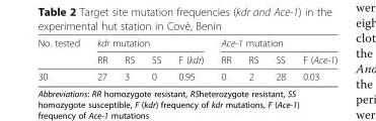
<table><thead><tr><td rowspan="2">No. tested</td><td colspan="4">kdr mutation</td><td colspan="4">Ace-1 mutation</td></tr><tr><td>RR</td><td>RS</td><td>SS</td><td>F (kdr)</td><td>RR</td><td>RS</td><td>SS</td><td>F (Ace-1)</td></tr></thead><tbody><tr><td>30</td><td>27</td><td>3</td><td>0</td><td>0.95</td><td>0</td><td>2</td><td>28</td><td>0.03</td></tr></tbody></table>